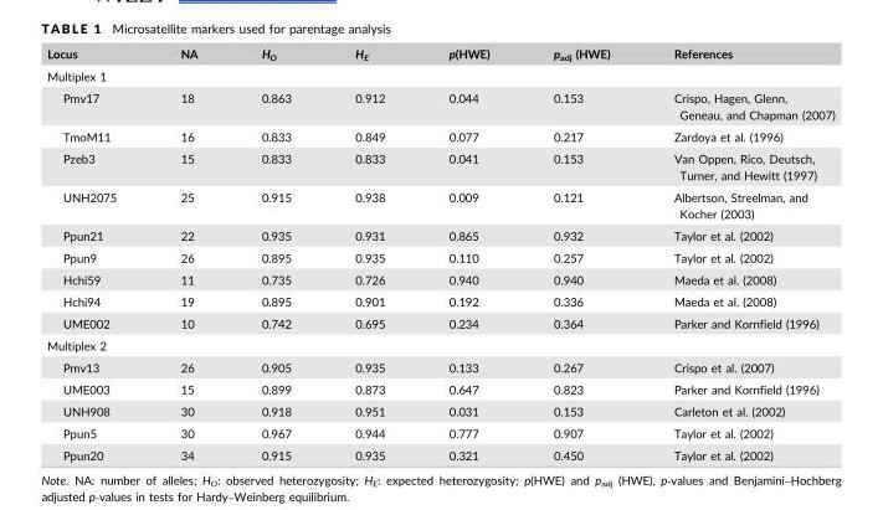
<table><thead><tr><td>Locus</td><td>NA</td><td>H<sub>O</sub></td><td>H<sub>E</sub></td><td>p(HWE)</td><td>p<sub>adj</sub> (HWE)</td><td>References</td></tr></thead><tbody><tr><td colspan="7">Multiplex 1</td></tr><tr><td>Pmv17</td><td>18</td><td>0.863</td><td>0.912</td><td>0.044</td><td>0.153</td><td>Crispo, Hagen, Glenn, Geneau, and Chapman (2007)</td></tr><tr><td>TmoM11</td><td>16</td><td>0.833</td><td>0.849</td><td>0.077</td><td>0.217</td><td>Zardoya et al. (1996)</td></tr><tr><td>Pzeb3</td><td>15</td><td>0.833</td><td>0.833</td><td>0.041</td><td>0.153</td><td>Van Oppen, Rico, Deutsch, Turner, and Hewitt (1997)</td></tr><tr><td>UNH2075</td><td>25</td><td>0.915</td><td>0.938</td><td>0.009</td><td>0.121</td><td>Albertson, Streelman, and Kocher (2003)</td></tr><tr><td>Ppun21</td><td>22</td><td>0.935</td><td>0.931</td><td>0.865</td><td>0.932</td><td>Taylor et al. (2002)</td></tr><tr><td>Ppun9</td><td>26</td><td>0.895</td><td>0.935</td><td>0.110</td><td>0.257</td><td>Taylor et al. (2002)</td></tr><tr><td>Hchi59</td><td>11</td><td>0.735</td><td>0.726</td><td>0.940</td><td>0.940</td><td>Maeda et al. (2008)</td></tr><tr><td>Hchi94</td><td>19</td><td>0.895</td><td>0.901</td><td>0.192</td><td>0.336</td><td>Maeda et al. (2008)</td></tr><tr><td>UME002</td><td>10</td><td>0.742</td><td>0.695</td><td>0.234</td><td>0.364</td><td>Parker and Kornfield (1996)</td></tr><tr><td colspan="7">Multiplex 2</td></tr><tr><td>Pmv13</td><td>26</td><td>0.905</td><td>0.935</td><td>0.133</td><td>0.267</td><td>Crispo et al. (2007)</td></tr><tr><td>UME003</td><td>15</td><td>0.899</td><td>0.873</td><td>0.647</td><td>0.823</td><td>Parker and Kornfield (1996)</td></tr><tr><td>UNH908</td><td>30</td><td>0.918</td><td>0.951</td><td>0.031</td><td>0.153</td><td>Carleton et al. (2002)</td></tr><tr><td>Ppun5</td><td>30</td><td>0.967</td><td>0.944</td><td>0.777</td><td>0.907</td><td>Taylor et al. (2002)</td></tr><tr><td>Ppun20</td><td>34</td><td>0.915</td><td>0.935</td><td>0.321</td><td>0.450</td><td>Taylor et al. (2002)</td></tr></tbody></table>